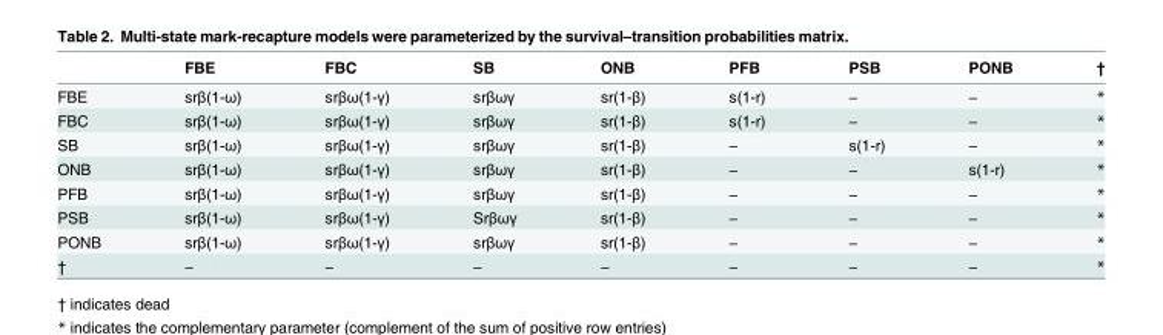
<table><thead><tr><td></td><td>FBE</td><td>FBC</td><td>SB</td><td>ONB</td><td>PFB</td><td>PSB</td><td>PONB</td><td>†</td></tr></thead><tbody><tr><td>FBE</td><td>srβ(1-ω)</td><td>srβω(1-γ)</td><td>srβωγ</td><td>sr(1-β)</td><td>s(1-r)</td><td>―</td><td>―</td><td>*</td></tr><tr><td>FBC</td><td>srβ(1-ω)</td><td>srβω(1-γ)</td><td>srβωγ</td><td>sr(1-β)</td><td>s(1-r)</td><td>―</td><td>―</td><td>*</td></tr><tr><td>SB</td><td>srβ(1-ω)</td><td>srβω(1-γ)</td><td>srβωγ</td><td>sr(1-β)</td><td>―</td><td>s(1-r)</td><td>―</td><td>*</td></tr><tr><td>ONB</td><td>srβ(1-ω)</td><td>srβω(1-γ)</td><td>srβωγ</td><td>sr(1-β)</td><td>―</td><td>―</td><td>s(1-r)</td><td>*</td></tr><tr><td>PFB</td><td>srβ(1-ω)</td><td>srβω(1-γ)</td><td>srβωγ</td><td>sr(1-β)</td><td>―</td><td>―</td><td>―</td><td>*</td></tr><tr><td>PSB</td><td>srβ(1-ω)</td><td>srβω(1-γ)</td><td>Srβωγ</td><td>sr(1-β)</td><td>―</td><td>―</td><td>―</td><td>*</td></tr><tr><td>PONB</td><td>srβ(1-ω)</td><td>srβω(1-γ)</td><td>srβωγ</td><td>sr(1-β)</td><td>―</td><td>―</td><td>―</td><td>*</td></tr><tr><td>†</td><td>―</td><td>―</td><td>―</td><td>―</td><td>―</td><td>―</td><td>―</td><td>*</td></tr></tbody></table>